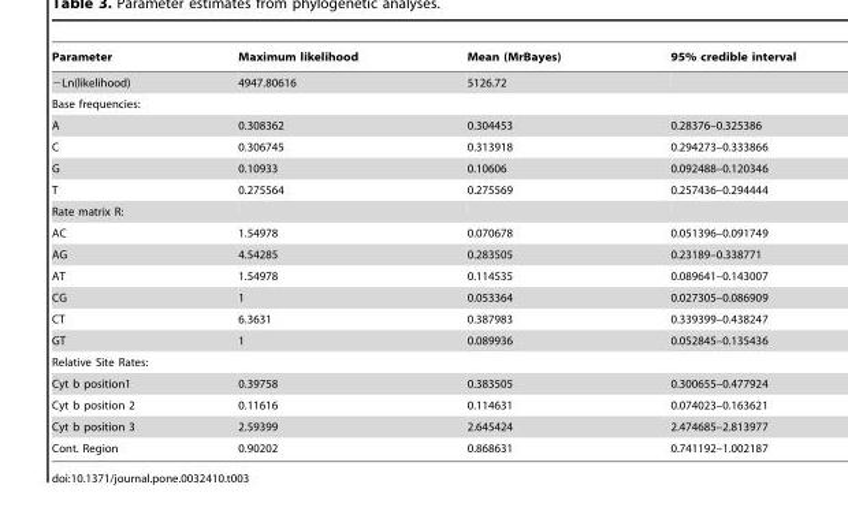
<table><thead><tr><td>Parameter</td><td>Maximum likelihood</td><td>Mean (MrBayes)</td><td>95% credible interval</td></tr></thead><tbody><tr><td>−Ln(likelihood)</td><td>4947.80616</td><td>5126.72</td><td></td></tr><tr><td colspan="4">Base frequencies:</td></tr><tr><td>A</td><td>0.308362</td><td>0.304453</td><td>0.28376–0.325386</td></tr><tr><td>C</td><td>0.306745</td><td>0.313918</td><td>0.294273–0.333866</td></tr><tr><td>G</td><td>0.10933</td><td>0.10606</td><td>0.092488–0.120346</td></tr><tr><td>T</td><td>0.275564</td><td>0.275569</td><td>0.257436–0.294444</td></tr><tr><td colspan="4">Rate matrix R:</td></tr><tr><td>AC</td><td>1.54978</td><td>0.070678</td><td>0.051396–0.091749</td></tr><tr><td>AG</td><td>4.54285</td><td>0.283505</td><td>0.23189–0.338771</td></tr><tr><td>AT</td><td>1.54978</td><td>0.114535</td><td>0.089641–0.143007</td></tr><tr><td>CG</td><td>1</td><td>0.053364</td><td>0.027305–0.086909</td></tr><tr><td>CT</td><td>6.3631</td><td>0.387983</td><td>0.339399–0.438247</td></tr><tr><td>GT</td><td>1</td><td>0.089936</td><td>0.052845–0.135436</td></tr><tr><td colspan="4">Relative Site Rates:</td></tr><tr><td>Cyt b position1</td><td>0.39758</td><td>0.383505</td><td>0.300655–0.477924</td></tr><tr><td>Cyt b position 2</td><td>0.11616</td><td>0.114631</td><td>0.074023–0.163621</td></tr><tr><td>Cyt b position 3</td><td>2.59399</td><td>2.645424</td><td>2.474685–2.813977</td></tr><tr><td>Cont. Region</td><td>0.90202</td><td>0.868631</td><td>0.741192–1.002187</td></tr></tbody></table>